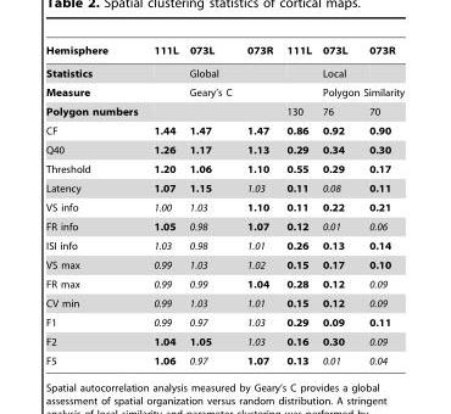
<table><thead><tr><td>Hemisphere</td><td>111L</td><td>073L</td><td>073R</td><td>111L</td><td>073L</td><td>073R</td></tr></thead><tbody><tr><td>Statistics</td><td></td><td>Global</td><td></td><td></td><td>Local</td><td></td></tr><tr><td>Measure</td><td></td><td>Geary’s C</td><td></td><td></td><td colspan="2">Polygon Similarity</td></tr><tr><td>Polygon numbers</td><td></td><td></td><td></td><td>130</td><td>76</td><td>70</td></tr><tr><td>CF</td><td>1.44</td><td>1.47</td><td>1.47</td><td>0.86</td><td>0.92</td><td>0.90</td></tr><tr><td>Q40</td><td>1.26</td><td>1.17</td><td>1.13</td><td>0.29</td><td>0.34</td><td>0.30</td></tr><tr><td>Threshold</td><td>1.20</td><td>1.06</td><td>1.10</td><td>0.55</td><td>0.29</td><td>0.17</td></tr><tr><td>Latency</td><td>1.07</td><td>1.15</td><td>1.03</td><td>0.11</td><td>0.08</td><td>0.11</td></tr><tr><td>VS info</td><td>1.00</td><td>1.03</td><td>1.10</td><td>0.11</td><td>0.22</td><td>0.21</td></tr><tr><td>FR info</td><td>1.05</td><td>0.98</td><td>1.07</td><td>0.12</td><td>0.01</td><td>0.06</td></tr><tr><td>ISI info</td><td>1.03</td><td>0.98</td><td>1.01</td><td>0.26</td><td>0.13</td><td>0.14</td></tr><tr><td>VS max</td><td>0.99</td><td>1.03</td><td>1.02</td><td>0.15</td><td>0.17</td><td>0.10</td></tr><tr><td>FR max</td><td>0.99</td><td>0.99</td><td>1.04</td><td>0.28</td><td>0.12</td><td>0.09</td></tr><tr><td>CV min</td><td>0.99</td><td>1.03</td><td>1.01</td><td>0.15</td><td>0.12</td><td>0.09</td></tr><tr><td>F1</td><td>0.99</td><td>0.97</td><td>1.03</td><td>0.29</td><td>0.09</td><td>0.11</td></tr><tr><td>F2</td><td>1.04</td><td>1.05</td><td>1.03</td><td>0.16</td><td>0.30</td><td>0.09</td></tr><tr><td>F5</td><td>1.06</td><td>0.97</td><td>1.07</td><td>0.13</td><td>0.01</td><td>0.04</td></tr></tbody></table>